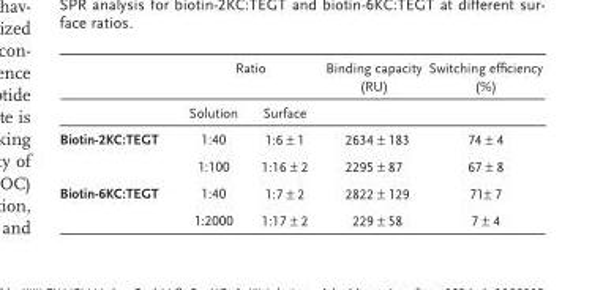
<table><thead><tr><td rowspan="2"></td><td colspan="2">Ratio</td><td rowspan="2">Binding capacity (RU)</td><td rowspan="2">Switching effi ciency (%)</td></tr><tr><td>Solution</td><td>Surface</td></tr></thead><tbody><tr><td rowspan="2">Biotin-2KC:TEGT</td><td>1:40</td><td>1:6 ± 1</td><td>2634 ± 183</td><td>74 ± 4</td></tr><tr><td>1:100</td><td>1:16 ± 2</td><td>2295 ± 87</td><td>67 ± 8</td></tr><tr><td rowspan="2">Biotin-6KC:TEGT</td><td>1:40</td><td>1:7 ± 2</td><td>2822 ± 129</td><td>71± 7</td></tr><tr><td>1:2000</td><td>1:17 ± 2</td><td>229 ± 58</td><td>7 ± 4</td></tr></tbody></table>